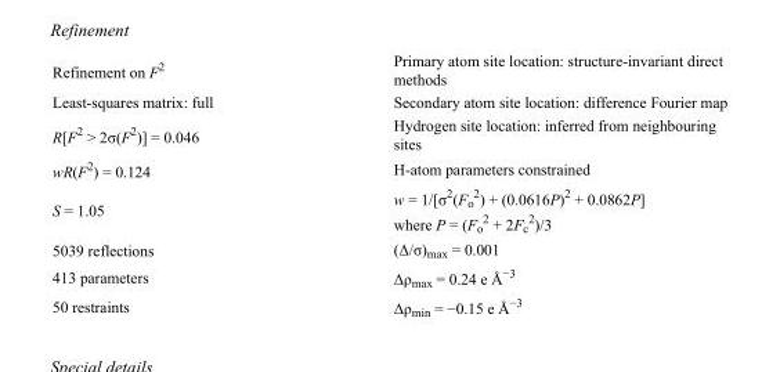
<table><tbody><tr><td>Refinement on F<sup>2</sup></td><td>Primary atom site location: structure-invariant direct methods</td></tr><tr><td>Least-squares matrix: full</td><td>Secondary atom site location: difference Fourier map</td></tr><tr><td>R[F<sup>2</sup> &gt; 2σ(F<sup>2</sup>)] = 0.046</td><td>Hydrogen site location: inferred from neighbouring sites</td></tr><tr><td>wR(F<sup>2</sup>) = 0.124</td><td>H-atom parameters constrained</td></tr><tr><td>S = 1.05</td><td>w = 1/[σ<sup>2</sup>(F<sub>o</sub> <sup>2</sup>) + (0.0616P)<sup>2</sup> + 0.0862P] where P = (F<sub>o</sub> <sup>2</sup> + 2F<sub>c</sub> <sup>2</sup>)/3</td></tr><tr><td>5039 reflections</td><td>(Δ/σ)<sub>max</sub> = 0.001</td></tr><tr><td>413 parameters</td><td>Δρ<sub>max</sub> = 0.24 e Å<sup>−3</sup></td></tr><tr><td>50 restraints</td><td>Δρ<sub>min</sub> = −0.15 e Å<sup>−3</sup></td></tr></tbody></table>